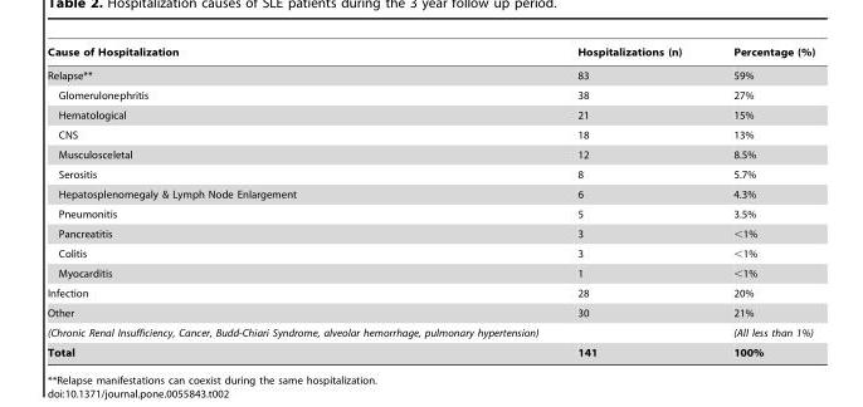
<table><thead><tr><td>Cause of Hospitalization</td><td>Hospitalizations (n)</td><td>Percentage (%)</td></tr></thead><tbody><tr><td>Relapse**</td><td>83</td><td>59%</td></tr><tr><td>Glomerulonephritis</td><td>38</td><td>27%</td></tr><tr><td>Hematological</td><td>21</td><td>15%</td></tr><tr><td>CNS</td><td>18</td><td>13%</td></tr><tr><td>Musculosceletal</td><td>12</td><td>8.5%</td></tr><tr><td>Serositis</td><td>8</td><td>5.7%</td></tr><tr><td>Hepatosplenomegaly &amp; Lymph Node Enlargement</td><td>6</td><td>4.3%</td></tr><tr><td>Pneumonitis</td><td>5</td><td>3.5%</td></tr><tr><td>Pancreatitis</td><td>3</td><td>&lt;1%</td></tr><tr><td>Colitis</td><td>3</td><td>&lt;1%</td></tr><tr><td>Myocarditis</td><td>1</td><td>&lt;1%</td></tr><tr><td>Infection</td><td>28</td><td>20%</td></tr><tr><td>Other</td><td>30</td><td>21%</td></tr><tr><td>(Chronic Renal Insufficiency, Cancer, Budd-Chiari Syndrome, alveolar hemorrhage, pulmonary hypertension)</td><td></td><td>(All less than 1%)</td></tr><tr><td>Total</td><td>141</td><td>100%</td></tr></tbody></table>